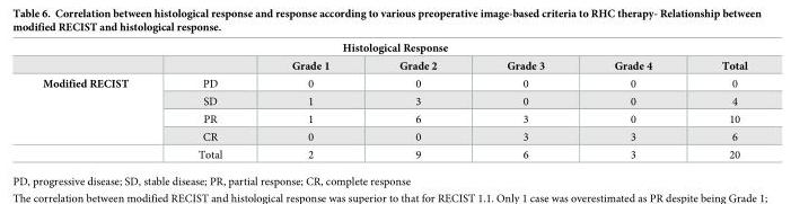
<table><thead><tr><td colspan="7">Histological Response</td></tr><tr><td></td><td></td><td>Grade 1</td><td>Grade 2</td><td>Grade 3</td><td>Grade 4</td><td>Total</td></tr></thead><tbody><tr><td rowspan="5">Modified RECIST</td><td>PD</td><td>0</td><td>0</td><td>0</td><td>0</td><td>0</td></tr><tr><td>SD</td><td>1</td><td>3</td><td>0</td><td>0</td><td>4</td></tr><tr><td>PR</td><td>1</td><td>6</td><td>3</td><td>0</td><td>10</td></tr><tr><td>CR</td><td>0</td><td>0</td><td>3</td><td>3</td><td>6</td></tr><tr><td>Total</td><td>2</td><td>9</td><td>6</td><td>3</td><td>20</td></tr></tbody></table>